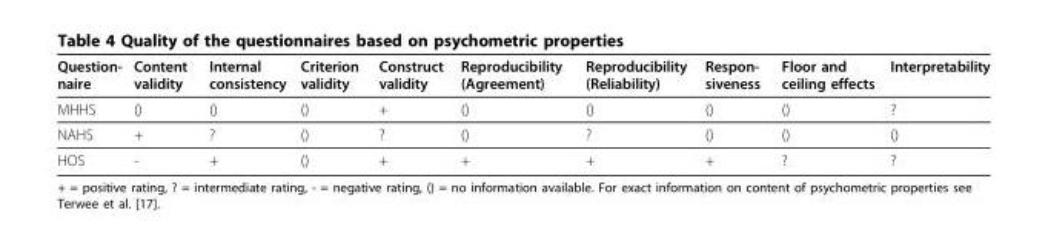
<table><thead><tr><td>Question- naire</td><td>Content validity</td><td>Internal consistency</td><td>Criterion validity</td><td>Construct validity</td><td>Reproducibility (Agreement)</td><td>Reproducibility (Reliability)</td><td>Respon- siveness</td><td>Floor and ceiling effects</td><td>Interpretability</td></tr></thead><tbody><tr><td>MHHS</td><td>()</td><td>()</td><td>()</td><td>+</td><td>()</td><td>()</td><td>()</td><td>()</td><td>?</td></tr><tr><td>NAHS</td><td>+</td><td>?</td><td>()</td><td>?</td><td>()</td><td>?</td><td>()</td><td>()</td><td>()</td></tr><tr><td>HOS</td><td>-</td><td>+</td><td>()</td><td>+</td><td>+</td><td>+</td><td>+</td><td>?</td><td>?</td></tr></tbody></table>